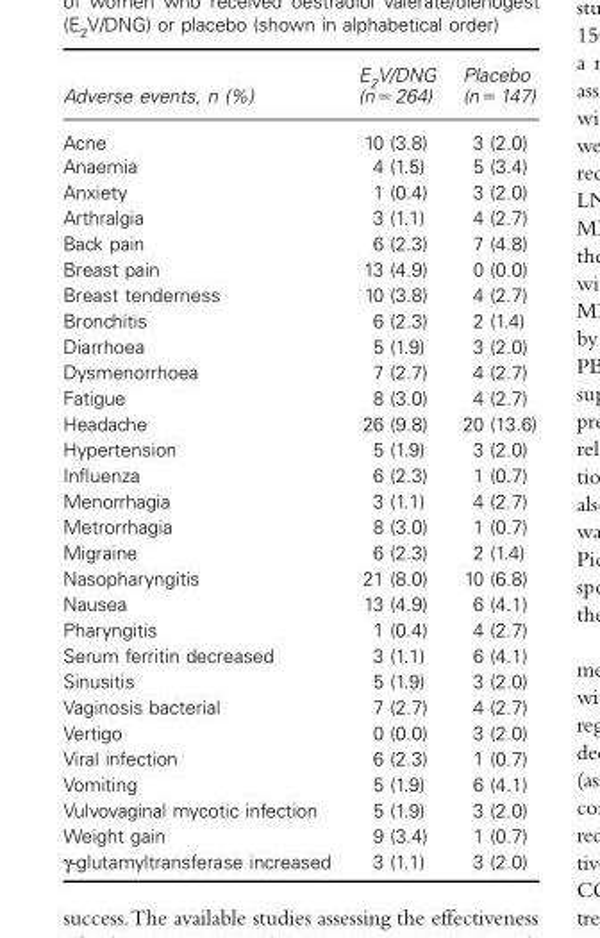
<table><thead><tr><td>Adverse events, n (%)</td><td>E <sub>2</sub> V/DNG (n = 264)</td><td>Placebo (n = 147)</td></tr></thead><tbody><tr><td>Acne</td><td>10 (3.8)</td><td>3 (2.0)</td></tr><tr><td>Anaemia</td><td>4 (1.5)</td><td>5 (3.4)</td></tr><tr><td>Anxiety</td><td>1 (0.4)</td><td>3 (2.0)</td></tr><tr><td>Arthralgia</td><td>3 (1.1)</td><td>4 (2.7)</td></tr><tr><td>Back pain</td><td>6 (2.3)</td><td>7 (4.8)</td></tr><tr><td>Breast pain</td><td>13 (4.9)</td><td>0 (0.0)</td></tr><tr><td>Breast tenderness</td><td>10 (3.8)</td><td>4 (2.7)</td></tr><tr><td>Bronchitis</td><td>6 (2.3)</td><td>2 (1.4)</td></tr><tr><td>Diarrhoea</td><td>5 (1.9)</td><td>3 (2.0)</td></tr><tr><td>Dysmenorrhoea</td><td>7 (2.7)</td><td>4 (2.7)</td></tr><tr><td>Fatigue</td><td>8 (3.0)</td><td>4 (2.7)</td></tr><tr><td>Headache</td><td>26 (9.8)</td><td>20 (13.6)</td></tr><tr><td>Hypertension</td><td>5 (1.9)</td><td>3 (2.0)</td></tr><tr><td>Infl uenza</td><td>6 (2.3)</td><td>1 (0.7)</td></tr><tr><td>Menorrhagia</td><td>3 (1.1)</td><td>4 (2.7)</td></tr><tr><td>Metrorrhagia</td><td>8 (3.0)</td><td>1 (0.7)</td></tr><tr><td>Migraine</td><td>6 (2.3)</td><td>2 (1.4)</td></tr><tr><td>Nasopharyngitis</td><td>21 (8.0)</td><td>10 (6.8)</td></tr><tr><td>Nausea</td><td>13 (4.9)</td><td>6 (4.1)</td></tr><tr><td>Pharyngitis</td><td>1 (0.4)</td><td>4 (2.7)</td></tr><tr><td>Serum ferritin decreased</td><td>3 (1.1)</td><td>6 (4.1)</td></tr><tr><td>Sinusitis</td><td>5 (1.9)</td><td>3 (2.0)</td></tr><tr><td>Vaginosis bacterial</td><td>7 (2.7)</td><td>4 (2.7)</td></tr><tr><td>Vertigo</td><td>0 (0.0)</td><td>3 (2.0)</td></tr><tr><td>Viral infection</td><td>6 (2.3)</td><td>1 (0.7)</td></tr><tr><td>Vomiting</td><td>5 (1.9)</td><td>6 (4.1)</td></tr><tr><td>Vulvovaginal mycotic infection</td><td>5 (1.9)</td><td>3 (2.0)</td></tr><tr><td>Weight gain</td><td>9 (3.4)</td><td>1 (0.7)</td></tr><tr><td>γ -glutamyltransferase increased</td><td>3 (1.1)</td><td>3 (2.0)</td></tr></tbody></table>